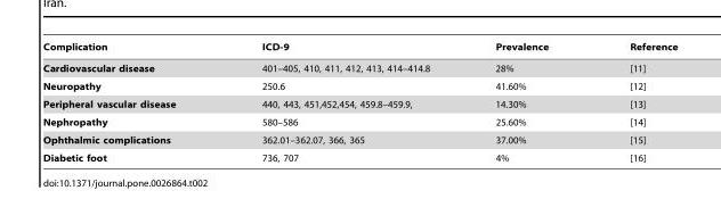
<table><thead><tr><td>Complication</td><td>ICD-9</td><td>Prevalence</td><td>Reference</td></tr></thead><tbody><tr><td>Cardiovascular disease</td><td>401–405, 410, 411, 412, 413, 414–414.8</td><td>28%</td><td>[11]</td></tr><tr><td>Neuropathy</td><td>250.6</td><td>41.60%</td><td>[12]</td></tr><tr><td>Peripheral vascular disease</td><td>440, 443, 451,452,454, 459.8–459.9,</td><td>14.30%</td><td>[13]</td></tr><tr><td>Nephropathy</td><td>580–586</td><td>25.60%</td><td>[14]</td></tr><tr><td>Ophthalmic complications</td><td>362.01–362.07, 366, 365</td><td>37.00%</td><td>[15]</td></tr><tr><td>Diabetic foot</td><td>736, 707</td><td>4%</td><td>[16]</td></tr></tbody></table>